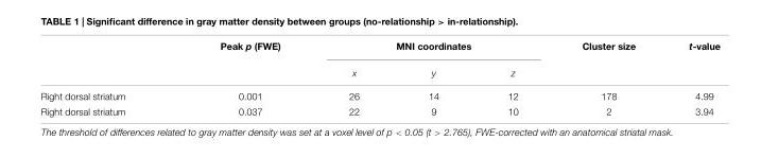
<table><thead><tr><td rowspan="2"></td><td rowspan="2">Peak p (FWE)</td><td colspan="3">MNI coordinates</td><td rowspan="2">Cluster size</td><td rowspan="2">t-value</td></tr><tr><td>x</td><td>y</td><td>z</td></tr></thead><tbody><tr><td>Right dorsal striatum</td><td>0.001</td><td>26</td><td>14</td><td>12</td><td>178</td><td>4.99</td></tr><tr><td>Right dorsal striatum</td><td>0.037</td><td>22</td><td>9</td><td>10</td><td>2</td><td>3.94</td></tr></tbody></table>